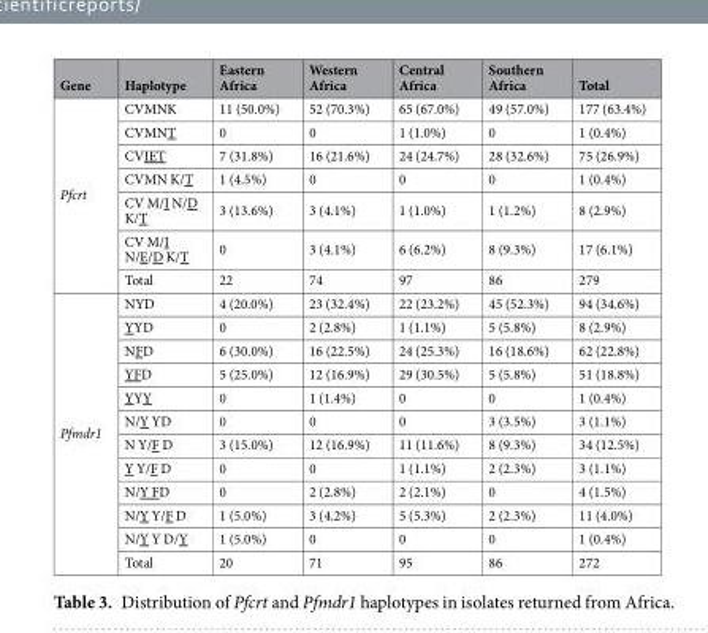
<table><thead><tr><td>Gene</td><td>Haplotype</td><td>Eastern Africa</td><td>Western Africa</td><td>Central Africa</td><td>Southern Africa</td><td>Total</td></tr></thead><tbody><tr><td rowspan="7">Pfcrt</td><td>CVMNK</td><td>11 (50.0%)</td><td>52 (70.3%)</td><td>65 (67.0%)</td><td>49 (57.0%)</td><td>177 (63.4%)</td></tr><tr><td>CVMNT</td><td>0</td><td>0</td><td>1 (1.0%)</td><td>0</td><td>1 (0.4%)</td></tr><tr><td>CVIET</td><td>7 (31.8%)</td><td>16 (21.6%)</td><td>24 (24.7%)</td><td>28 (32.6%)</td><td>75 (26.9%)</td></tr><tr><td>CVMN K/T</td><td>1 (4.5%)</td><td>0</td><td>0</td><td>0</td><td>1 (0.4%)</td></tr><tr><td>CV M/I N/D K/T</td><td>3 (13.6%)</td><td>3 (4.1%)</td><td>1 (1.0%)</td><td>1 (1.2%)</td><td>8 (2.9%)</td></tr><tr><td>CV M/I N/E/D K/T</td><td>0</td><td>3 (4.1%)</td><td>6 (6.2%)</td><td>8 (9.3%)</td><td>17 (6.1%)</td></tr><tr><td>Total</td><td>22</td><td>74</td><td>97</td><td>86</td><td>279</td></tr><tr><td rowspan="12">Pfmdr1</td><td>NYD</td><td>4 (20.0%)</td><td>23 (32.4%)</td><td>22 (23.2%)</td><td>45 (52.3%)</td><td>94 (34.6%)</td></tr><tr><td>YYD</td><td>0</td><td>2 (2.8%)</td><td>1 (1.1%)</td><td>5 (5.8%)</td><td>8 (2.9%)</td></tr><tr><td>NFD</td><td>6 (30.0%)</td><td>16 (22.5%)</td><td>24 (25.3%)</td><td>16 (18.6%)</td><td>62 (22.8%)</td></tr><tr><td>YFD</td><td>5 (25.0%)</td><td>12 (16.9%)</td><td>29 (30.5%)</td><td>5 (5.8%)</td><td>51 (18.8%)</td></tr><tr><td>YYY</td><td>0</td><td>1 (1.4%)</td><td>0</td><td>0</td><td>1 (0.4%)</td></tr><tr><td>N/Y YD</td><td>0</td><td>0</td><td>0</td><td>3 (3.5%)</td><td>3 (1.1%)</td></tr><tr><td>N Y/F D</td><td>3 (15.0%)</td><td>12 (16.9%)</td><td>11 (11.6%)</td><td>8 (9.3%)</td><td>34 (12.5%)</td></tr><tr><td>Y Y/F D</td><td>0</td><td>0</td><td>1 (1.1%)</td><td>2 (2.3%)</td><td>3 (1.1%)</td></tr><tr><td>N/Y FD</td><td>0</td><td>2 (2.8%)</td><td>2 (2.1%)</td><td>0</td><td>4 (1.5%)</td></tr><tr><td>N/Y Y/F D</td><td>1 (5.0%)</td><td>3 (4.2%)</td><td>5 (5.3%)</td><td>2 (2.3%)</td><td>11 (4.0%)</td></tr><tr><td>N/Y Y D/Y</td><td>1 (5.0%)</td><td>0</td><td>0</td><td>0</td><td>1 (0.4%)</td></tr><tr><td>Total</td><td>20</td><td>71</td><td>95</td><td>86</td><td>272</td></tr></tbody></table>